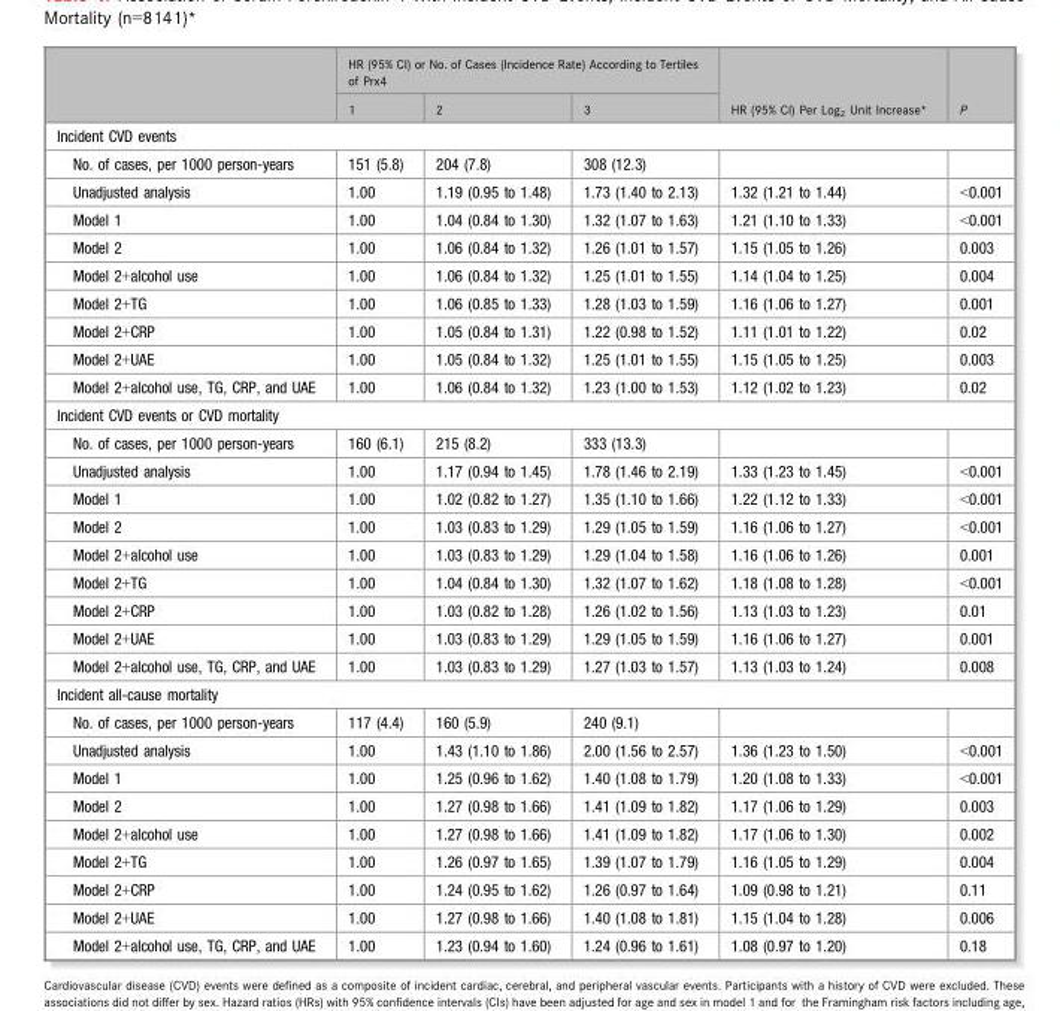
<table><thead><tr><td rowspan="2"></td><td colspan="3">HR (95% CI) or No. of Cases (Incidence Rate) According to Tertiles of Prx4</td><td rowspan="2">HR (95% CI) Per Log<sub>2</sub> Unit Increase*</td><td rowspan="2">P</td></tr><tr><td>1</td><td>2</td><td>3</td></tr></thead><tbody><tr><td colspan="6">Incident CVD events</td></tr><tr><td>No. of cases, per 1000 person-years</td><td>151 (5.8)</td><td>204 (7.8)</td><td>308 (12.3)</td><td></td><td></td></tr><tr><td>Unadjusted analysis</td><td>1.00</td><td>1.19 (0.95 to 1.48)</td><td>1.73 (1.40 to 2.13)</td><td>1.32 (1.21 to 1.44)</td><td>&lt;0.001</td></tr><tr><td>Model 1</td><td>1.00</td><td>1.04 (0.84 to 1.30)</td><td>1.32 (1.07 to 1.63)</td><td>1.21 (1.10 to 1.33)</td><td>&lt;0.001</td></tr><tr><td>Model 2</td><td>1.00</td><td>1.06 (0.84 to 1.32)</td><td>1.26 (1.01 to 1.57)</td><td>1.15 (1.05 to 1.26)</td><td>0.003</td></tr><tr><td>Model 2+alcohol use</td><td>1.00</td><td>1.06 (0.84 to 1.32)</td><td>1.25 (1.01 to 1.55)</td><td>1.14 (1.04 to 1.25)</td><td>0.004</td></tr><tr><td>Model 2+TG</td><td>1.00</td><td>1.06 (0.85 to 1.33)</td><td>1.28 (1.03 to 1.59)</td><td>1.16 (1.06 to 1.27)</td><td>0.001</td></tr><tr><td>Model 2+CRP</td><td>1.00</td><td>1.05 (0.84 to 1.31)</td><td>1.22 (0.98 to 1.52)</td><td>1.11 (1.01 to 1.22)</td><td>0.02</td></tr><tr><td>Model 2+UAE</td><td>1.00</td><td>1.05 (0.84 to 1.32)</td><td>1.25 (1.01 to 1.55)</td><td>1.15 (1.05 to 1.25)</td><td>0.003</td></tr><tr><td>Model 2+alcohol use, TG, CRP, and UAE</td><td>1.00</td><td>1.06 (0.84 to 1.32)</td><td>1.23 (1.00 to 1.53)</td><td>1.12 (1.02 to 1.23)</td><td>0.02</td></tr><tr><td colspan="6">Incident CVD events or CVD mortality</td></tr><tr><td>No. of cases, per 1000 person-years</td><td>160 (6.1)</td><td>215 (8.2)</td><td>333 (13.3)</td><td></td><td></td></tr><tr><td>Unadjusted analysis</td><td>1.00</td><td>1.17 (0.94 to 1.45)</td><td>1.78 (1.46 to 2.19)</td><td>1.33 (1.23 to 1.45)</td><td>&lt;0.001</td></tr><tr><td>Model 1</td><td>1.00</td><td>1.02 (0.82 to 1.27)</td><td>1.35 (1.10 to 1.66)</td><td>1.22 (1.12 to 1.33)</td><td>&lt;0.001</td></tr><tr><td>Model 2</td><td>1.00</td><td>1.03 (0.83 to 1.29)</td><td>1.29 (1.05 to 1.59)</td><td>1.16 (1.06 to 1.27)</td><td>&lt;0.001</td></tr><tr><td>Model 2+alcohol use</td><td>1.00</td><td>1.03 (0.83 to 1.29)</td><td>1.29 (1.04 to 1.58)</td><td>1.16 (1.06 to 1.26)</td><td>0.001</td></tr><tr><td>Model 2+TG</td><td>1.00</td><td>1.04 (0.84 to 1.30)</td><td>1.32 (1.07 to 1.62)</td><td>1.18 (1.08 to 1.28)</td><td>&lt;0.001</td></tr><tr><td>Model 2+CRP</td><td>1.00</td><td>1.03 (0.82 to 1.28)</td><td>1.26 (1.02 to 1.56)</td><td>1.13 (1.03 to 1.23)</td><td>0.01</td></tr><tr><td>Model 2+UAE</td><td>1.00</td><td>1.03 (0.83 to 1.29)</td><td>1.29 (1.05 to 1.59)</td><td>1.16 (1.06 to 1.27)</td><td>0.001</td></tr><tr><td>Model 2+alcohol use, TG, CRP, and UAE</td><td>1.00</td><td>1.03 (0.83 to 1.29)</td><td>1.27 (1.03 to 1.57)</td><td>1.13 (1.03 to 1.24)</td><td>0.008</td></tr><tr><td colspan="6">Incident all-cause mortality</td></tr><tr><td>No. of cases, per 1000 person-years</td><td>117 (4.4)</td><td>160 (5.9)</td><td>240 (9.1)</td><td></td><td></td></tr><tr><td>Unadjusted analysis</td><td>1.00</td><td>1.43 (1.10 to 1.86)</td><td>2.00 (1.56 to 2.57)</td><td>1.36 (1.23 to 1.50)</td><td>&lt;0.001</td></tr><tr><td>Model 1</td><td>1.00</td><td>1.25 (0.96 to 1.62)</td><td>1.40 (1.08 to 1.79)</td><td>1.20 (1.08 to 1.33)</td><td>&lt;0.001</td></tr><tr><td>Model 2</td><td>1.00</td><td>1.27 (0.98 to 1.66)</td><td>1.41 (1.09 to 1.82)</td><td>1.17 (1.06 to 1.29)</td><td>0.003</td></tr><tr><td>Model 2+alcohol use</td><td>1.00</td><td>1.27 (0.98 to 1.66)</td><td>1.41 (1.09 to 1.82)</td><td>1.17 (1.06 to 1.30)</td><td>0.002</td></tr><tr><td>Model 2+TG</td><td>1.00</td><td>1.26 (0.97 to 1.65)</td><td>1.39 (1.07 to 1.79)</td><td>1.16 (1.05 to 1.29)</td><td>0.004</td></tr><tr><td>Model 2+CRP</td><td>1.00</td><td>1.24 (0.95 to 1.62)</td><td>1.26 (0.97 to 1.64)</td><td>1.09 (0.98 to 1.21)</td><td>0.11</td></tr><tr><td>Model 2+UAE</td><td>1.00</td><td>1.27 (0.98 to 1.66)</td><td>1.40 (1.08 to 1.81)</td><td>1.15 (1.04 to 1.28)</td><td>0.006</td></tr><tr><td>Model 2+alcohol use, TG, CRP, and UAE</td><td>1.00</td><td>1.23 (0.94 to 1.60)</td><td>1.24 (0.96 to 1.61)</td><td>1.08 (0.97 to 1.20)</td><td>0.18</td></tr></tbody></table>